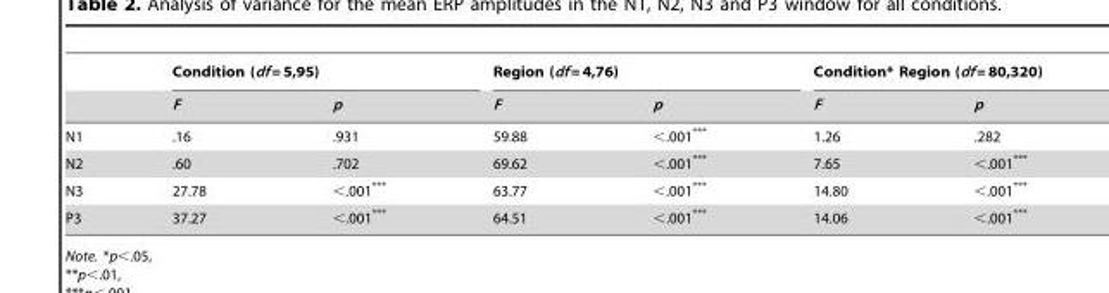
<table><thead><tr><td rowspan="2"></td><td colspan="2">Condition (df = 5,95)</td><td colspan="2">Region (df = 4,76)</td><td colspan="2">Condition* Region (df = 80,320)</td></tr><tr><td>F</td><td>p</td><td>F</td><td>p</td><td>F</td><td>p</td></tr></thead><tbody><tr><td>N1</td><td>.16</td><td>.931</td><td>59.88</td><td>&lt;.001***</td><td>1.26</td><td>.282</td></tr><tr><td>N2</td><td>.60</td><td>.702</td><td>69.62</td><td>&lt;.001***</td><td>7.65</td><td>&lt;.001***</td></tr><tr><td>N3</td><td>27.78</td><td>&lt;.001***</td><td>63.77</td><td>&lt;.001***</td><td>14.80</td><td>&lt;.001***</td></tr><tr><td>P3</td><td>37.27</td><td>&lt;.001***</td><td>64.51</td><td>&lt;.001***</td><td>14.06</td><td>&lt;.001***</td></tr></tbody></table>